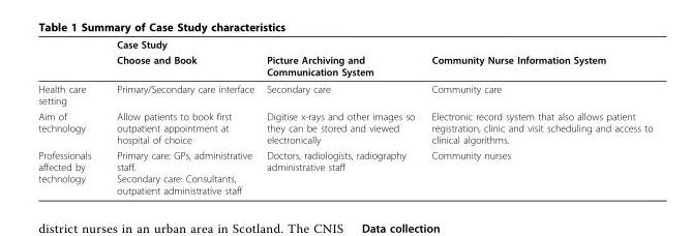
<table><thead><tr><td rowspan="2"></td><td colspan="3">Case Study</td></tr><tr><td>Choose and Book</td><td>Picture Archiving and Communication System</td><td>Community Nurse Information System</td></tr></thead><tbody><tr><td>Health care setting</td><td>Primary/Secondary care interface</td><td>Secondary care</td><td>Community care</td></tr><tr><td>Aim of technology</td><td>Allow patients to book first outpatient appointment at hospital of choice</td><td>Digitise x-rays and other images so they can be stored and viewed electronically</td><td>Electronic record system that also allows patient registration, clinic and visit scheduling and access to clinical algorithms.</td></tr><tr><td>Professionals affected by technology</td><td>Primary care: GPs, administrative staff. Secondary care: Consultants, outpatient administrative staff</td><td>Doctors, radiologists, radiography administrative staff</td><td>Community nurses</td></tr></tbody></table>